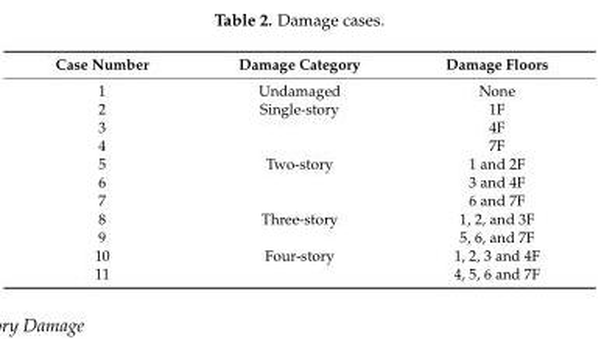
<table><thead><tr><td>Case Number</td><td>Damage Category</td><td>Damage Floors</td></tr></thead><tbody><tr><td>1</td><td>Undamaged</td><td>None</td></tr><tr><td>2</td><td>Single-story</td><td>1F</td></tr><tr><td>3</td><td></td><td>4F</td></tr><tr><td>4</td><td></td><td>7F</td></tr><tr><td>5</td><td>Two-story</td><td>1 and 2F</td></tr><tr><td>6</td><td></td><td>3 and 4F</td></tr><tr><td>7</td><td></td><td>6 and 7F</td></tr><tr><td>8</td><td>Three-story</td><td>1, 2, and 3F</td></tr><tr><td>9</td><td></td><td>5, 6, and 7F</td></tr><tr><td>10</td><td>Four-story</td><td>1, 2, 3 and 4F</td></tr><tr><td>11</td><td></td><td>4, 5, 6 and 7F</td></tr></tbody></table>